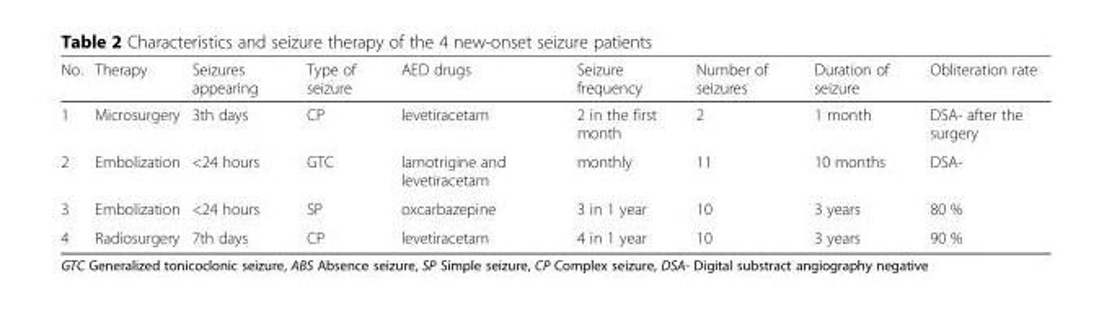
<table><thead><tr><td>No.</td><td>Therapy</td><td>Seizures appearing</td><td>Type of seizure</td><td>AED drugs</td><td>Seizure frequency</td><td>Number of seizures</td><td>Duration of seizure</td><td>Obliteration rate</td></tr></thead><tbody><tr><td>1</td><td>Microsurgery</td><td>3th days</td><td>CP</td><td>levetiracetam</td><td>2 in the first month</td><td>2</td><td>1 month</td><td>DSA- after the surgery</td></tr><tr><td>2</td><td>Embolization</td><td>&lt;24 hours</td><td>GTC</td><td>lamotrigine and levetiracetam</td><td>monthly</td><td>11</td><td>10 months</td><td>DSA-</td></tr><tr><td>3</td><td>Embolization</td><td>&lt;24 hours</td><td>SP</td><td>oxcarbazepine</td><td>3 in 1 year</td><td>10</td><td>3 years</td><td>80 %</td></tr><tr><td>4</td><td>Radiosurgery</td><td>7th days</td><td>CP</td><td>levetiracetam</td><td>4 in 1 year</td><td>10</td><td>3 years</td><td>90 %</td></tr></tbody></table>